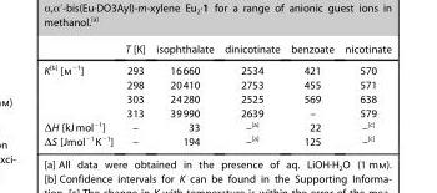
<table><thead><tr><td></td><td>T [K]</td><td>isophthalate</td><td>dinicotinate</td><td>benzoate</td><td>nicotinate</td></tr></thead><tbody><tr><td rowspan="4">K<sup>[b]</sup> [m<sup>−1</sup>]</td><td>293</td><td>16660</td><td>2534</td><td>421</td><td>570</td></tr><tr><td>298</td><td>20410</td><td>2753</td><td>455</td><td>571</td></tr><tr><td>303</td><td>24280</td><td>2525</td><td>569</td><td>638</td></tr><tr><td>313</td><td>39990</td><td>2639</td><td>–</td><td>579</td></tr><tr><td>ΔH [kJmol<sup>−1</sup>]</td><td>–</td><td>33</td><td>–<sup>[a]</sup></td><td>22</td><td>–<sup>[c]</sup></td></tr><tr><td>ΔS [Jmol<sup>−1</sup>K<sup>−1</sup>]</td><td>–</td><td>194</td><td>–<sup>[a]</sup></td><td>125</td><td>–<sup>[c]</sup></td></tr></tbody></table>